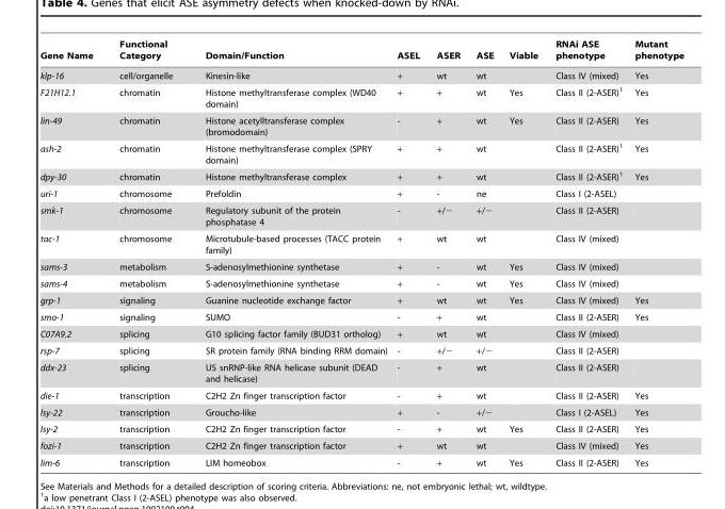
<table><thead><tr><td>Gene Name</td><td>Functional Category</td><td>Domain/Function</td><td>ASEL</td><td>ASER</td><td>ASE</td><td>Viable</td><td>RNAi ASE phenotype</td><td>Mutant phenotype</td></tr></thead><tbody><tr><td>klp-16</td><td>cell/organelle</td><td>Kinesin-like</td><td>+</td><td>wt</td><td>wt</td><td></td><td>Class IV (mixed)</td><td>Yes</td></tr><tr><td>F21H12.1</td><td>chromatin</td><td>Histone methyltransferase complex (WD40 domain)</td><td>+</td><td>+</td><td>wt</td><td>Yes</td><td>Class II (2-ASER)<sup>1</sup></td><td>Yes</td></tr><tr><td>lin-49</td><td>chromatin</td><td>Histone acetylltransferase complex (bromodomain)</td><td>-</td><td>+</td><td>wt</td><td>Yes</td><td>Class II (2-ASER)</td><td>Yes</td></tr><tr><td>ash-2</td><td>chromatin</td><td>Histone methyltransferase complex (SPRY domain)</td><td>+</td><td>+</td><td>wt</td><td></td><td>Class II (2-ASER)<sup>1</sup></td><td>Yes</td></tr><tr><td>dpy-30</td><td>chromatin</td><td>Histone methyltransferase complex</td><td>+</td><td>+</td><td>wt</td><td></td><td>Class II (2-ASER)<sup>1</sup></td><td>Yes</td></tr><tr><td>uri-1</td><td>chromosome</td><td>Prefoldin</td><td>+</td><td>-</td><td>ne</td><td></td><td>Class I (2-ASEL)</td><td></td></tr><tr><td>smk-1</td><td>chromosome</td><td>Regulatory subunit of the protein phosphatase 4</td><td>-</td><td>+/−</td><td>+/−</td><td></td><td>Class II (2-ASER)</td><td></td></tr><tr><td>tac-1</td><td>chromosome</td><td>Microtubule-based processes (TACC protein family)</td><td>+</td><td>wt</td><td>wt</td><td></td><td>Class IV (mixed)</td><td></td></tr><tr><td>sams-3</td><td>metabolism</td><td>S-adenosylmethionine synthetase</td><td>+</td><td>-</td><td>wt</td><td>Yes</td><td>Class IV (mixed)</td><td></td></tr><tr><td>sams-4</td><td>metabolism</td><td>S-adenosylmethionine synthetase</td><td>+</td><td>-</td><td>wt</td><td>Yes</td><td>Class IV (mixed)</td><td></td></tr><tr><td>grp-1</td><td>signaling</td><td>Guanine nucleotide exchange factor</td><td>+</td><td>wt</td><td>wt</td><td>Yes</td><td>Class IV (mixed)</td><td>Yes</td></tr><tr><td>smo-1</td><td>signaling</td><td>SUMO</td><td>-</td><td>+</td><td>wt</td><td></td><td>Class II (2-ASER)</td><td>Yes</td></tr><tr><td>C07A9.2</td><td>splicing</td><td>G10 splicing factor family (BUD31 ortholog)</td><td>+</td><td>wt</td><td>wt</td><td></td><td>Class IV (mixed)</td><td></td></tr><tr><td>rsp-7</td><td>splicing</td><td>SR protein family (RNA binding RRM domain)</td><td>-</td><td>+/−</td><td>+/−</td><td></td><td>Class II (2-ASER)</td><td></td></tr><tr><td>ddx-23</td><td>splicing</td><td>U5 snRNP-like RNA helicase subunit (DEAD and helicase)</td><td>-</td><td>+</td><td>wt</td><td></td><td>Class II (2-ASER)</td><td></td></tr><tr><td>die-1</td><td>transcription</td><td>C2H2 Zn finger transcription factor</td><td>-</td><td>+</td><td>wt</td><td></td><td>Class II (2-ASER)</td><td>Yes</td></tr><tr><td>lsy-22</td><td>transcription</td><td>Groucho-like</td><td>+</td><td>-</td><td>+/−</td><td></td><td>Class I (2-ASEL)</td><td>Yes</td></tr><tr><td>lsy-2</td><td>transcription</td><td>C2H2 Zn finger transcription factor</td><td>-</td><td>+</td><td>wt</td><td>Yes</td><td>Class II (2-ASER)</td><td>Yes</td></tr><tr><td>fozi-1</td><td>transcription</td><td>C2H2 Zn finger transcription factor</td><td>+</td><td>wt</td><td>wt</td><td></td><td>Class IV (mixed)</td><td>Yes</td></tr><tr><td>lim-6</td><td>transcription</td><td>LIM homeobox</td><td>-</td><td>+</td><td>wt</td><td>Yes</td><td>Class II (2-ASER)</td><td>Yes</td></tr></tbody></table>